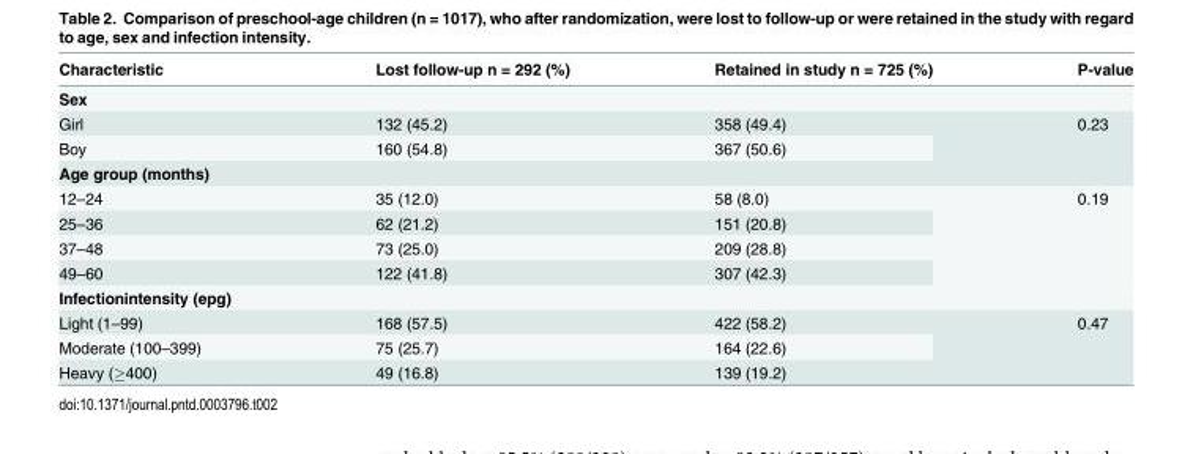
<table><thead><tr><td>Characteristic</td><td>Lost follow-up n = 292 (%)</td><td>Retained in study n = 725 (%)</td><td>P-value</td></tr></thead><tbody><tr><td colspan="4">Sex</td></tr><tr><td>Girl</td><td>132 (45.2)</td><td>358 (49.4)</td><td rowspan="2">0.23</td></tr><tr><td>Boy</td><td>160 (54.8)</td><td>367 (50.6)</td></tr><tr><td colspan="4">Age group (months)</td></tr><tr><td>12–24</td><td>35 (12.0)</td><td>58 (8.0)</td><td rowspan="4">0.19</td></tr><tr><td>25–36</td><td>62 (21.2)</td><td>151 (20.8)</td></tr><tr><td>37–48</td><td>73 (25.0)</td><td>209 (28.8)</td></tr><tr><td>49–60</td><td>122 (41.8)</td><td>307 (42.3)</td></tr><tr><td colspan="4">Infectionintensity (epg)</td></tr><tr><td>Light (1–99)</td><td>168 (57.5)</td><td>422 (58.2)</td><td rowspan="3">0.47</td></tr><tr><td>Moderate (100–399)</td><td>75 (25.7)</td><td>164 (22.6)</td></tr><tr><td>Heavy (≥400)</td><td>49 (16.8)</td><td>139 (19.2)</td></tr></tbody></table>